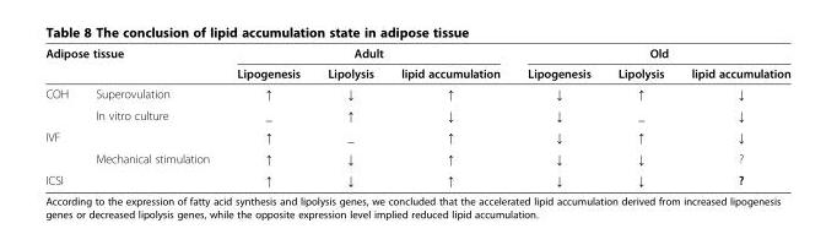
<table><thead><tr><td rowspan="2" colspan="2">Adipose tissue</td><td colspan="3">Adult</td><td colspan="3">Old</td></tr><tr><td rowspan="2">Lipogenesis ↑</td><td rowspan="2">Lipolysis ↓</td><td rowspan="2">lipid accumulation ↑</td><td rowspan="2">Lipogenesis ↓</td><td rowspan="2">Lipolysis ↑</td><td rowspan="2">lipid accumulation ↓</td></tr><tr><td>COH</td><td>Superovulation</td></tr></thead><tbody><tr><td></td><td>In vitro culture</td><td>_</td><td>↑</td><td>↓</td><td>↓</td><td>_</td><td>↓</td></tr><tr><td rowspan="2">IVF</td><td></td><td>↑</td><td>_</td><td>↑</td><td>↓</td><td>↑</td><td>↓</td></tr><tr><td>Mechanical stimulation</td><td>↑</td><td>↓</td><td>↑</td><td>↓</td><td>↓</td><td>?</td></tr><tr><td>ICSI</td><td></td><td>↑</td><td>↓</td><td>↑</td><td>↓</td><td>↓</td><td>?</td></tr></tbody></table>